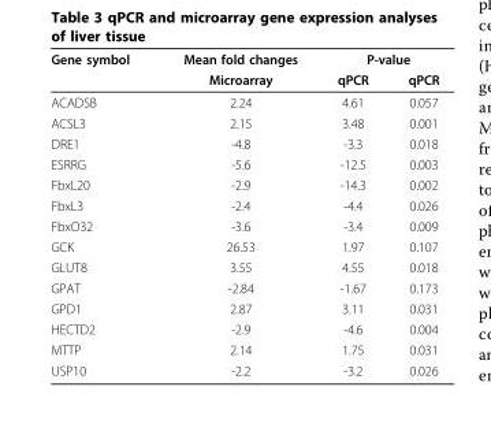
<table><thead><tr><td rowspan="2">Gene symbol</td><td rowspan="2">Mean fold changes Microarray</td><td colspan="2">P-value</td></tr><tr><td>qPCR</td><td>qPCR</td></tr></thead><tbody><tr><td>ACADSB</td><td>2.24</td><td>4.61</td><td>0.057</td></tr><tr><td>ACSL3</td><td>2.15</td><td>3.48</td><td>0.001</td></tr><tr><td>DRE1</td><td>-4.8</td><td>-3.3</td><td>0.018</td></tr><tr><td>ESRRG</td><td>-5.6</td><td>-12.5</td><td>0.003</td></tr><tr><td>FbxL20</td><td>-2.9</td><td>-14.3</td><td>0.002</td></tr><tr><td>FbxL3</td><td>-2.4</td><td>-4.4</td><td>0.026</td></tr><tr><td>FbxO32</td><td>-3.6</td><td>-3.4</td><td>0.009</td></tr><tr><td>GCK</td><td>26.53</td><td>1.97</td><td>0.107</td></tr><tr><td>GLUT8</td><td>3.55</td><td>4.55</td><td>0.018</td></tr><tr><td>GPAT</td><td>-2.84</td><td>-1.67</td><td>0.173</td></tr><tr><td>GPD1</td><td>2.87</td><td>3.11</td><td>0.031</td></tr><tr><td>HECTD2</td><td>-2.9</td><td>-4.6</td><td>0.004</td></tr><tr><td>MTTP</td><td>2.14</td><td>1.75</td><td>0.031</td></tr><tr><td>USP10</td><td>-2.2</td><td>-3.2</td><td>0.026</td></tr></tbody></table>